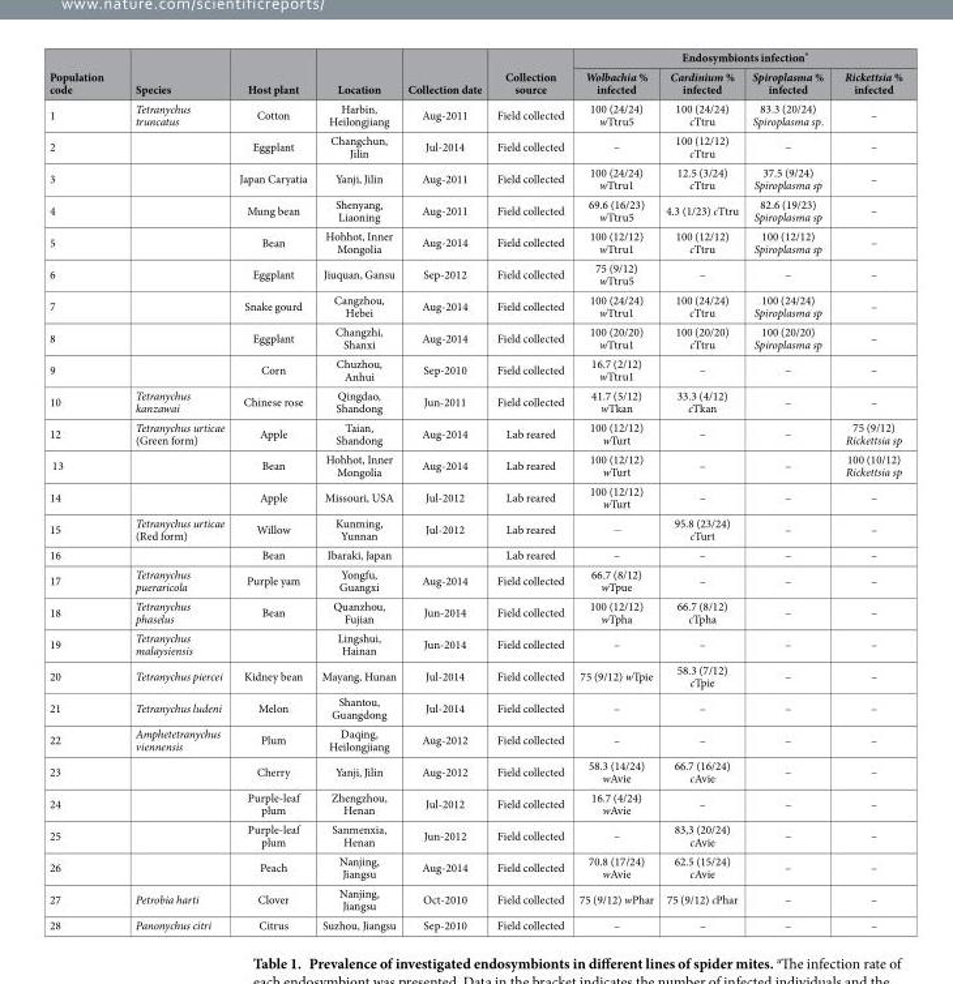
<table><thead><tr><td rowspan="2">Population code</td><td rowspan="2">Species</td><td rowspan="2">Host plant</td><td rowspan="2">Location</td><td rowspan="2">Collection date</td><td rowspan="2">Collection source</td><td colspan="4">Endosymbionts infection*</td></tr><tr><td>Wolbachia % infected</td><td>Cardinium % infected</td><td>Spiroplasma % infected</td><td>Rickettsia % infected</td></tr></thead><tbody><tr><td>1</td><td>Tetranychus truncatus</td><td>Cotton</td><td>Harbin, Heilongjiang</td><td>Aug-2011</td><td>Field collected</td><td>100 (24/24) wTtru5</td><td>100 (24/24) cTtru</td><td>83.3 (20/24) Spiroplasma sp.</td><td>–</td></tr><tr><td>2</td><td></td><td>Eggplant</td><td>Changchun, Jilin</td><td>Jul-2014</td><td>Field collected</td><td>–</td><td>100 (12/12) cTtru</td><td>–</td><td>–</td></tr><tr><td>3</td><td></td><td>Japan Caryatia</td><td>Yanji, Jilin</td><td>Aug-2011</td><td>Field collected</td><td>100 (24/24) wTtru1</td><td>12.5 (3/24) cTtru</td><td>37.5 (9/24) Spiroplasma sp</td><td>–</td></tr><tr><td>4</td><td></td><td>Mung bean</td><td>Shenyang, Liaoning</td><td>Aug-2011</td><td>Field collected</td><td>69.6 (16/23) wTtru5</td><td>4.3 (1/23) cTtru</td><td>82.6 (19/23) Spiroplasma sp</td><td>–</td></tr><tr><td>5</td><td></td><td>Bean</td><td>Hohhot, Inner Mongolia</td><td>Aug-2014</td><td>Field collected</td><td>100 (12/12) wTtru1</td><td>100 (12/12) cTtru</td><td>100 (12/12) Spiroplasma sp</td><td>–</td></tr><tr><td>6</td><td></td><td>Eggplant</td><td>Jiuquan, Gansu</td><td>Sep-2012</td><td>Field collected</td><td>75 (9/12) wTtru5</td><td>–</td><td>–</td><td>–</td></tr><tr><td>7</td><td></td><td>Snake gourd</td><td>Cangzhou, Hebei</td><td>Aug-2014</td><td>Field collected</td><td>100 (24/24) wTtru1</td><td>100 (24/24) cTtru</td><td>100 (24/24) Spiroplasma sp</td><td>–</td></tr><tr><td>8</td><td></td><td>Eggplant</td><td>Changzhi, Shanxi</td><td>Aug-2014</td><td>Field collected</td><td>100 (20/20) wTtru1</td><td>100 (20/20) cTtru</td><td>100 (20/20) Spiroplasma sp</td><td>–</td></tr><tr><td>9</td><td></td><td>Corn</td><td>Chuzhou, Anhui</td><td>Sep-2010</td><td>Field collected</td><td>16.7 (2/12) wTtru1</td><td>–</td><td>–</td><td>–</td></tr><tr><td>10</td><td>Tetranychus kanzawai</td><td>Chinese rose</td><td>Qingdao, Shandong</td><td>Jun-2011</td><td>Field collected</td><td>41.7 (5/12) wTkan</td><td>33.3 (4/12) cTkan</td><td>–</td><td>–</td></tr><tr><td>12</td><td>Tetranychus urticae (Green form)</td><td>Apple</td><td>Taian, Shandong</td><td>Aug-2014</td><td>Lab reared</td><td>100 (12/12) wTurt</td><td>–</td><td>–</td><td>75 (9/12) Rickettsia sp</td></tr><tr><td>13</td><td></td><td>Bean</td><td>Hohhot, Inner Mongolia</td><td>Aug-2014</td><td>Lab reared</td><td>100 (12/12) wTurt</td><td>–</td><td>–</td><td>100 (10/12) Rickettsia sp</td></tr><tr><td>14</td><td></td><td>Apple</td><td>Missouri, USA</td><td>Jul-2012</td><td>Lab reared</td><td>100 (12/12) wTurt</td><td>–</td><td>–</td><td>–</td></tr><tr><td>15</td><td>Tetranychus urticae (Red form)</td><td>Willow</td><td>Kunming, Yunnan</td><td>Jul-2012</td><td>Lab reared</td><td>−</td><td>95.8 (23/24) cTurt</td><td>–</td><td>–</td></tr><tr><td>16</td><td></td><td>Bean</td><td>Ibaraki, Japan</td><td></td><td>Lab reared</td><td>–</td><td>–</td><td>–</td><td>–</td></tr><tr><td>17</td><td>Tetranychus pueraricola</td><td>Purple yam</td><td>Yongfu, Guangxi</td><td>Aug-2014</td><td>Field collected</td><td>66.7 (8/12) wTpue</td><td>–</td><td>–</td><td>–</td></tr><tr><td>18</td><td>Tetranychus phaselus</td><td>Bean</td><td>Quanzhou, Fujian</td><td>Jun-2014</td><td>Field collected</td><td>100 (12/12) wTpha</td><td>66.7 (8/12) cTpha</td><td>–</td><td>–</td></tr><tr><td>19</td><td>Tetranychus malaysiensis</td><td></td><td>Lingshui, Hainan</td><td>Jun-2014</td><td>Field collected</td><td>–</td><td>–</td><td>–</td><td>–</td></tr><tr><td>20</td><td>Tetranychus piercei</td><td>Kidney bean</td><td>Mayang, Hunan</td><td>Jul-2014</td><td>Field collected</td><td>75 (9/12) wTpie</td><td>58.3 (7/12) cTpie</td><td>–</td><td>–</td></tr><tr><td>21</td><td>Tetranychus ludeni</td><td>Melon</td><td>Shantou, Guangdong</td><td>Jul-2014</td><td>Field collected</td><td>–</td><td>–</td><td>–</td><td>–</td></tr><tr><td>22</td><td>Amphetetranychus viennensis</td><td>Plum</td><td>Daqing, Heilongjiang</td><td>Aug-2012</td><td>Field collected</td><td>–</td><td>–</td><td>–</td><td>–</td></tr><tr><td>23</td><td></td><td>Cherry</td><td>Yanji, Jilin</td><td>Aug-2012</td><td>Field collected</td><td>58.3 (14/24) wAvie</td><td>66.7 (16/24) cAvie</td><td>–</td><td>–</td></tr><tr><td>24</td><td></td><td>Purple-leaf plum</td><td>Zhengzhou, Henan</td><td>Jul-2012</td><td>Field collected</td><td>16.7 (4/24) wAvie</td><td>–</td><td>–</td><td>–</td></tr><tr><td>25</td><td></td><td>Purple-leaf plum</td><td>Sanmenxia, Henan</td><td>Jun-2012</td><td>Field collected</td><td>–</td><td>83,3 (20/24) cAvie</td><td>–</td><td>–</td></tr><tr><td>26</td><td></td><td>Peach</td><td>Nanjing, Jiangsu</td><td>Aug-2014</td><td>Field collected</td><td>70.8 (17/24) wAvie</td><td>62.5 (15/24) cAvie</td><td>–</td><td>–</td></tr><tr><td>27</td><td>Petrobia harti</td><td>Clover</td><td>Nanjing, Jiangsu</td><td>Oct-2010</td><td>Field collected</td><td>75 (9/12) wPhar</td><td>75 (9/12) cPhar</td><td>–</td><td>–</td></tr><tr><td>28</td><td>Panonychus citri</td><td>Citrus</td><td>Suzhou, Jiangsu</td><td>Sep-2010</td><td>Field collected</td><td>–</td><td>–</td><td>–</td><td>–</td></tr></tbody></table>